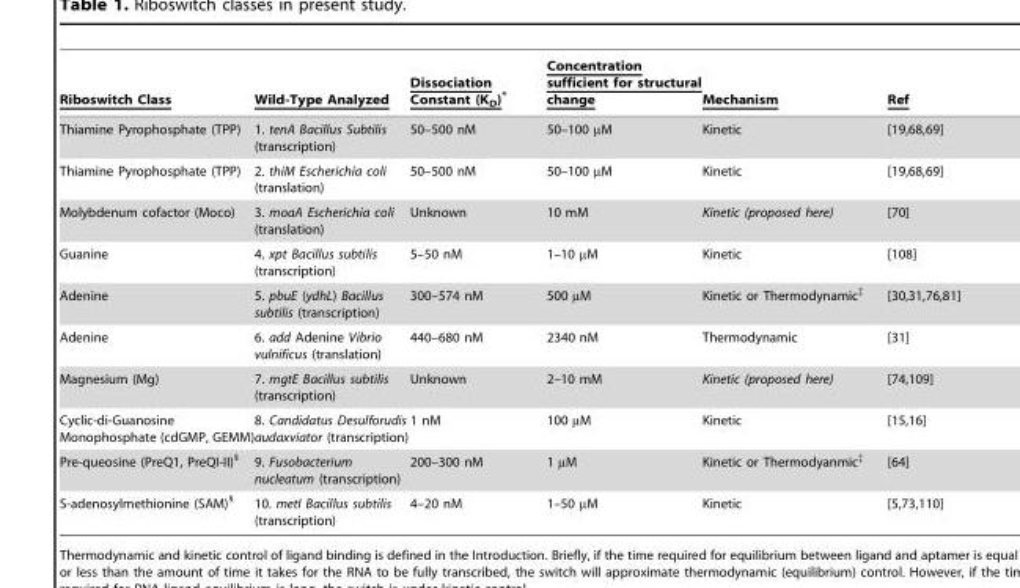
<table><thead><tr><td>Riboswitch Class</td><td>Wild-Type Analyzed</td><td>Dissociation Constant (K<sub>D</sub>)*</td><td>Concentration sufficient for structural change</td><td>Mechanism</td><td>Ref</td></tr></thead><tbody><tr><td>Thiamine Pyrophosphate (TPP)</td><td>1. tenA Bacillus Subtilis (transcription)</td><td>50–500 nM</td><td>50–100 µM</td><td>Kinetic</td><td>[19,68,69]</td></tr><tr><td>Thiamine Pyrophosphate (TPP)</td><td>2. thiM Escherichia coli (translation)</td><td>50–500 nM</td><td>50–100 µM</td><td>Kinetic</td><td>[19,68,69]</td></tr><tr><td>Molybdenum cofactor (Moco)</td><td>3. moaA Escherichia coli (translation)</td><td>Unknown</td><td>10 mM</td><td>Kinetic (proposed here)</td><td>[70]</td></tr><tr><td>Guanine</td><td>4. xpt Bacillus subtilis (transcription)</td><td>5–50 nM</td><td>1–10 µM</td><td>Kinetic</td><td>[108]</td></tr><tr><td>Adenine</td><td>5. pbuE (ydhL) Bacillus subtilis (transcription)</td><td>300–574 nM</td><td>500 µM</td><td>Kinetic or Thermodynamic‡</td><td>[30,31,76,81]</td></tr><tr><td>Adenine</td><td>6. add Adenine Vibrio vulnificus (translation)</td><td>440–680 nM</td><td>2340 nM</td><td>Thermodynamic</td><td>[31]</td></tr><tr><td>Magnesium (Mg)</td><td>7. mgtE Bacillus subtilis (transcription)</td><td>Unknown</td><td>2–10 mM</td><td>Kinetic (proposed here)</td><td>[74,109]</td></tr><tr><td>Cyclic-di-Guanosine Monophosphate (cdGMP, GEMM)</td><td>8. Candidatus Desulforudis audaxviator (transcription)</td><td>1 nM</td><td>100 µM</td><td>Kinetic</td><td>[15,16]</td></tr><tr><td>Pre-queosine (PreQ1, PreQI-II)§</td><td>9. Fusobacterium nucleatum (transcription)</td><td>200–300 nM</td><td>1 µM</td><td>Kinetic or Thermodyanmic‡</td><td>[64]</td></tr><tr><td>S-adenosylmethionine (SAM)§</td><td>10. metI Bacillus subtilis (transcription)</td><td>4–20 nM</td><td>1–50 µM</td><td>Kinetic</td><td>[5,73,110]</td></tr></tbody></table>